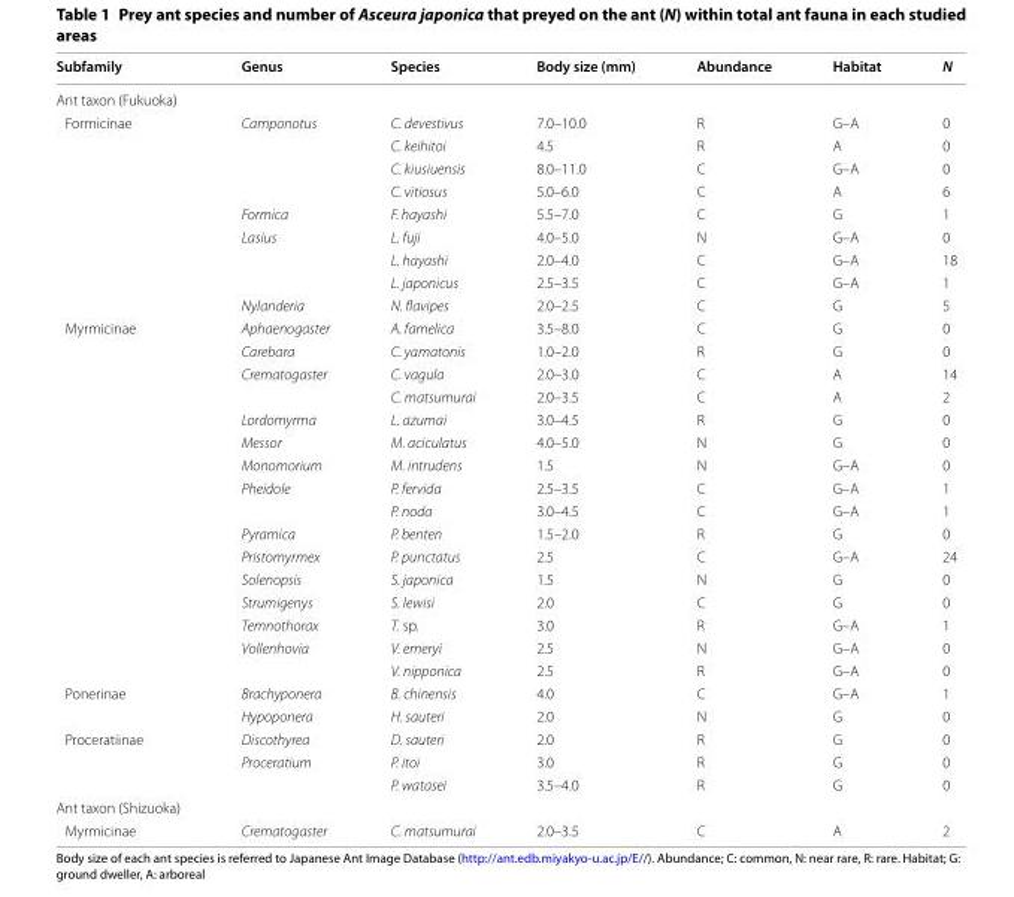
<table><thead><tr><td>Subfamily</td><td>Genus</td><td>Species</td><td>Body size (mm)</td><td>Abundance</td><td>Habitat</td><td>N</td></tr></thead><tbody><tr><td colspan="7">Ant taxon (Fukuoka)</td></tr><tr><td rowspan="9">Formicinae</td><td>Camponotus</td><td>C. devestivus</td><td>7.0–10.0</td><td>R</td><td>G–A</td><td>0</td></tr><tr><td></td><td>C. keihitoi</td><td>4.5</td><td>R</td><td>A</td><td>0</td></tr><tr><td></td><td>C. kiusiuensis</td><td>8.0–11.0</td><td>C</td><td>G–A</td><td>0</td></tr><tr><td></td><td>C. vitiosus</td><td>5.0–6.0</td><td>C</td><td>A</td><td>6</td></tr><tr><td>Formica</td><td>F. hayashi</td><td>5.5–7.0</td><td>C</td><td>G</td><td>1</td></tr><tr><td>Lasius</td><td>L. fuji</td><td>4.0–5.0</td><td>N</td><td>G–A</td><td>0</td></tr><tr><td></td><td>L. hayashi</td><td>2.0–4.0</td><td>C</td><td>G–A</td><td>18</td></tr><tr><td></td><td>L. japonicus</td><td>2.5–3.5</td><td>C</td><td>G–A</td><td>1</td></tr><tr><td>Nylanderia</td><td>N. flavipes</td><td>2.0–2.5</td><td>C</td><td>G</td><td>5</td></tr><tr><td rowspan="16">Myrmicinae</td><td>Aphaenogaster</td><td>A. famelica</td><td>3.5–8.0</td><td>C</td><td>G</td><td>0</td></tr><tr><td>Carebara</td><td>C. yamatonis</td><td>1.0–2.0</td><td>R</td><td>G</td><td>0</td></tr><tr><td>Crematogaster</td><td>C. vagula</td><td>2.0–3.0</td><td>C</td><td>A</td><td>14</td></tr><tr><td></td><td>C. matsumurai</td><td>2.0–3.5</td><td>C</td><td>A</td><td>2</td></tr><tr><td>Lordomyrma</td><td>L. azumai</td><td>3.0–4.5</td><td>R</td><td>G</td><td>0</td></tr><tr><td>Messor</td><td>M. aciculatus</td><td>4.0–5.0</td><td>N</td><td>G</td><td>0</td></tr><tr><td>Monomorium</td><td>M. intrudens</td><td>1.5</td><td>N</td><td>G–A</td><td>0</td></tr><tr><td>Pheidole</td><td>P. fervida</td><td>2.5–3.5</td><td>C</td><td>G–A</td><td>1</td></tr><tr><td></td><td>P. noda</td><td>3.0–4.5</td><td>C</td><td>G–A</td><td>1</td></tr><tr><td>Pyramica</td><td>P. benten</td><td>1.5–2.0</td><td>R</td><td>G</td><td>0</td></tr><tr><td>Pristomyrmex</td><td>P. punctatus</td><td>2.5</td><td>C</td><td>G–A</td><td>24</td></tr><tr><td>Solenopsis</td><td>S. japonica</td><td>1.5</td><td>N</td><td>G</td><td>0</td></tr><tr><td>Strumigenys</td><td>S. lewisi</td><td>2.0</td><td>C</td><td>G</td><td>0</td></tr><tr><td>Temnothorax</td><td>T. sp.</td><td>3.0</td><td>R</td><td>G–A</td><td>1</td></tr><tr><td>Vollenhovia</td><td>V. emeryi</td><td>2.5</td><td>N</td><td>G–A</td><td>0</td></tr><tr><td></td><td>V. nipponica</td><td>2.5</td><td>R</td><td>G–A</td><td>0</td></tr><tr><td rowspan="2">Ponerinae</td><td>Brachyponera</td><td>B. chinensis</td><td>4.0</td><td>C</td><td>G–A</td><td>1</td></tr><tr><td>Hypoponera</td><td>H. sauteri</td><td>2.0</td><td>N</td><td>G</td><td>0</td></tr><tr><td rowspan="3">Proceratiinae</td><td>Discothyrea</td><td>D. sauteri</td><td>2.0</td><td>R</td><td>G</td><td>0</td></tr><tr><td>Proceratium</td><td>P. itoi</td><td>3.0</td><td>R</td><td>G</td><td>0</td></tr><tr><td></td><td>P. watasei</td><td>3.5–4.0</td><td>R</td><td>G</td><td>0</td></tr><tr><td colspan="7">Ant taxon (Shizuoka)</td></tr><tr><td>Myrmicinae</td><td>Crematogaster</td><td>C. matsumurai</td><td>2.0–3.5</td><td>C</td><td>A</td><td>2</td></tr></tbody></table>